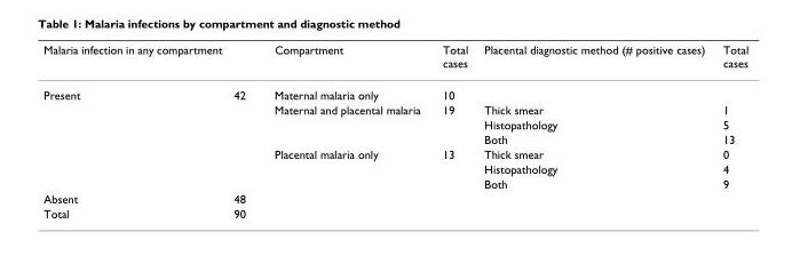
<table><thead><tr><td>Malaria infection in any compartment</td><td></td><td>Compartment</td><td>Total cases</td><td>Placental diagnostic method (# positive cases)</td><td>Total cases</td></tr></thead><tbody><tr><td rowspan="7">Present</td><td>42</td><td>Maternal malaria only</td><td>10</td><td></td><td></td></tr><tr><td></td><td>Maternal and placental malaria</td><td>19</td><td>Thick smear</td><td>1</td></tr><tr><td></td><td></td><td></td><td>Histopathology</td><td>5</td></tr><tr><td></td><td></td><td></td><td>Both</td><td>13</td></tr><tr><td></td><td>Placental malaria only</td><td>13</td><td>Thick smear</td><td>0</td></tr><tr><td></td><td></td><td></td><td>Histopathology</td><td>4</td></tr><tr><td></td><td></td><td></td><td>Both</td><td>9</td></tr><tr><td>Absent</td><td>48</td><td></td><td></td><td></td><td></td></tr><tr><td>Total</td><td>90</td><td></td><td></td><td></td><td></td></tr></tbody></table>